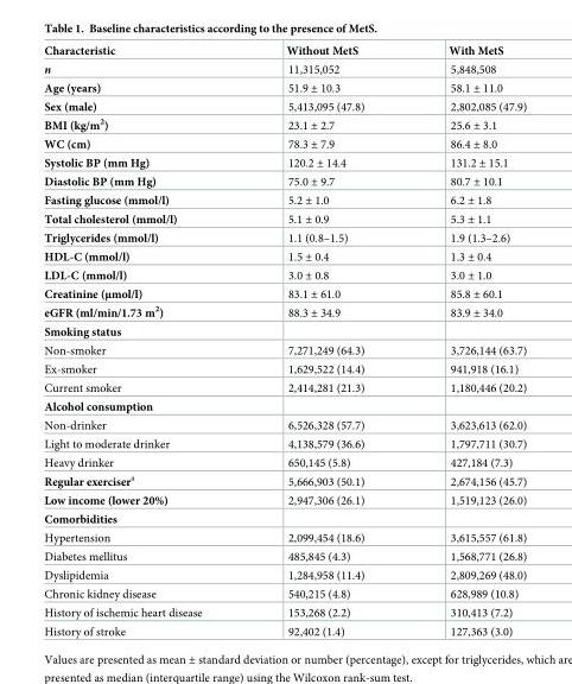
<table><thead><tr><td>Characteristic</td><td>Without MetS</td><td>With MetS</td></tr></thead><tbody><tr><td>n</td><td>11,315,052</td><td>5,848,508</td></tr><tr><td>Age (years)</td><td>51.9 ± 10.3</td><td>58.1 ± 11.0</td></tr><tr><td>Sex (male)</td><td>5,413,095 (47.8)</td><td>2,802,085 (47.9)</td></tr><tr><td>BMI (kg/m<sup>2</sup>)</td><td>23.1 ± 2.7</td><td>25.6 ± 3.1</td></tr><tr><td>WC (cm)</td><td>78.3 ± 7.9</td><td>86.4 ± 8.0</td></tr><tr><td>Systolic BP (mm Hg)</td><td>120.2 ± 14.4</td><td>131.2 ± 15.1</td></tr><tr><td>Diastolic BP (mm Hg)</td><td>75.0 ± 9.7</td><td>80.7 ± 10.1</td></tr><tr><td>Fasting glucose (mmol/l)</td><td>5.2 ± 1.0</td><td>6.2 ± 1.8</td></tr><tr><td>Total cholesterol (mmol/l)</td><td>5.1 ± 0.9</td><td>5.3 ± 1.1</td></tr><tr><td>Triglycerides (mmol/l)</td><td>1.1 (0.8–1.5)</td><td>1.9 (1.3–2.6)</td></tr><tr><td>HDL-C (mmol/l)</td><td>1.5 ± 0.4</td><td>1.3 ± 0.4</td></tr><tr><td>LDL-C (mmol/l)</td><td>3.0 ± 0.8</td><td>3.0 ± 1.0</td></tr><tr><td>Creatinine (μmol/l)</td><td>83.1 ± 61.0</td><td>85.8 ± 60.1</td></tr><tr><td>eGFR (ml/min/1.73 m<sup>2</sup>)</td><td>88.3 ± 34.9</td><td>83.9 ± 34.0</td></tr><tr><td colspan="3">Smoking status</td></tr><tr><td>Non-smoker</td><td>7,271,249 (64.3)</td><td>3,726,144 (63.7)</td></tr><tr><td>Ex-smoker</td><td>1,629,522 (14.4)</td><td>941,918 (16.1)</td></tr><tr><td>Current smoker</td><td>2,414,281 (21.3)</td><td>1,180,446 (20.2)</td></tr><tr><td colspan="3">Alcohol consumption</td></tr><tr><td>Non-drinker</td><td>6,526,328 (57.7)</td><td>3,623,613 (62.0)</td></tr><tr><td>Light to moderate drinker</td><td>4,138,579 (36.6)</td><td>1,797,711 (30.7)</td></tr><tr><td>Heavy drinker</td><td>650,145 (5.8)</td><td>427,184 (7.3)</td></tr><tr><td>Regular exerciser<sup>a</sup></td><td>5,666,903 (50.1)</td><td>2,674,156 (45.7)</td></tr><tr><td>Low income (lower 20%)</td><td>2,947,306 (26.1)</td><td>1,519,123 (26.0)</td></tr><tr><td colspan="3">Comorbidities</td></tr><tr><td>Hypertension</td><td>2,099,454 (18.6)</td><td>3,615,557 (61.8)</td></tr><tr><td>Diabetes mellitus</td><td>485,845 (4.3)</td><td>1,568,771 (26.8)</td></tr><tr><td>Dyslipidemia</td><td>1,284,958 (11.4)</td><td>2,809,269 (48.0)</td></tr><tr><td>Chronic kidney disease</td><td>540,215 (4.8)</td><td>628,989 (10.8)</td></tr><tr><td>History of ischemic heart disease</td><td>153,268 (2.2)</td><td>310,413 (7.2)</td></tr><tr><td>History of stroke</td><td>92,402 (1.4)</td><td>127,363 (3.0)</td></tr></tbody></table>